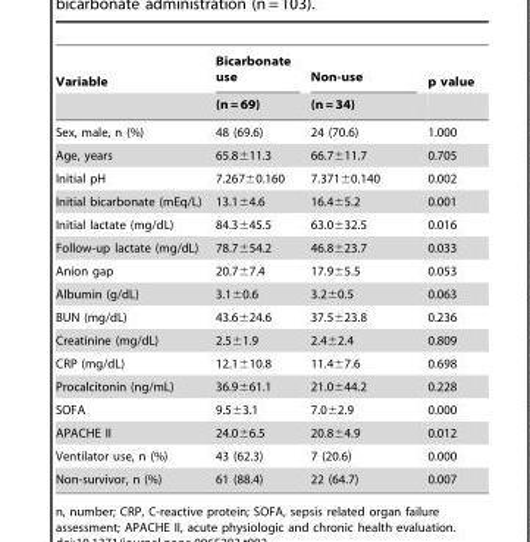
<table><thead><tr><td rowspan="2">Variable</td><td rowspan="2">Bicarbonate use (n = 69)</td><td rowspan="2">Non-use (n = 34)</td><td rowspan="2">p value</td></tr><tr></tr></thead><tbody><tr><td>Sex, male, n (%)</td><td>48 (69.6)</td><td>24 (70.6)</td><td>1.000</td></tr><tr><td>Age, years</td><td>65.8±11.3</td><td>66.7±11.7</td><td>0.705</td></tr><tr><td>Initial pH</td><td>7.267±0.160</td><td>7.371±0.140</td><td>0.002</td></tr><tr><td>Initial bicarbonate (mEq/L)</td><td>13.1±4.6</td><td>16.4±5.2</td><td>0.001</td></tr><tr><td>Initial lactate (mg/dL)</td><td>84.3±45.5</td><td>63.0±32.5</td><td>0.016</td></tr><tr><td>Follow-up lactate (mg/dL)</td><td>78.7±54.2</td><td>46.8±23.7</td><td>0.033</td></tr><tr><td>Anion gap</td><td>20.7±7.4</td><td>17.9±5.5</td><td>0.053</td></tr><tr><td>Albumin (g/dL)</td><td>3.1±0.6</td><td>3.2±0.5</td><td>0.063</td></tr><tr><td>BUN (mg/dL)</td><td>43.6±24.6</td><td>37.5±23.8</td><td>0.236</td></tr><tr><td>Creatinine (mg/dL)</td><td>2.5±1.9</td><td>2.4±2.4</td><td>0.809</td></tr><tr><td>CRP (mg/dL)</td><td>12.1±10.8</td><td>11.4±7.6</td><td>0.698</td></tr><tr><td>Procalcitonin (ng/mL)</td><td>36.9±61.1</td><td>21.0±44.2</td><td>0.228</td></tr><tr><td>SOFA</td><td>9.5±3.1</td><td>7.0±2.9</td><td>0.000</td></tr><tr><td>APACHE II</td><td>24.0±6.5</td><td>20.8±4.9</td><td>0.012</td></tr><tr><td>Ventilator use, n (%)</td><td>43 (62.3)</td><td>7 (20.6)</td><td>0.000</td></tr><tr><td>Non-survivor, n (%)</td><td>61 (88.4)</td><td>22 (64.7)</td><td>0.007</td></tr></tbody></table>